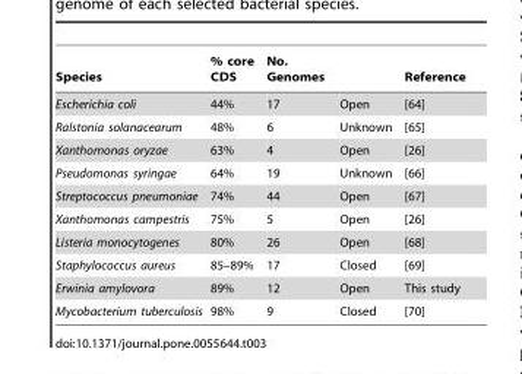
<table><thead><tr><td>Species</td><td>% core CDS</td><td>No. Genomes</td><td></td><td>Reference</td></tr></thead><tbody><tr><td>Escherichia coli</td><td>44%</td><td>17</td><td>Open</td><td>[64]</td></tr><tr><td>Ralstonia solanacearum</td><td>48%</td><td>6</td><td>Unknown</td><td>[65]</td></tr><tr><td>Xanthomonas oryzae</td><td>63%</td><td>4</td><td>Open</td><td>[26]</td></tr><tr><td>Pseudomonas syringae</td><td>64%</td><td>19</td><td>Unknown</td><td>[66]</td></tr><tr><td>Streptococcus pneumoniae</td><td>74%</td><td>44</td><td>Open</td><td>[67]</td></tr><tr><td>Xanthomonas campestris</td><td>75%</td><td>5</td><td>Open</td><td>[26]</td></tr><tr><td>Listeria monocytogenes</td><td>80%</td><td>26</td><td>Open</td><td>[68]</td></tr><tr><td>Staphylococcus aureus</td><td>85–89%</td><td>17</td><td>Closed</td><td>[69]</td></tr><tr><td>Erwinia amylovora</td><td>89%</td><td>12</td><td>Open</td><td>This study</td></tr><tr><td>Mycobacterium tuberculosis</td><td>98%</td><td>9</td><td>Closed</td><td>[70]</td></tr></tbody></table>